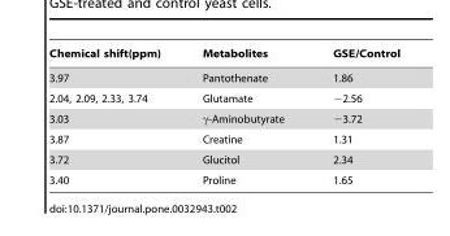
<table><thead><tr><td>Chemical shift(ppm)</td><td>Metabolites</td><td>GSE/Control</td></tr></thead><tbody><tr><td>3.97</td><td>Pantothenate</td><td>1.86</td></tr><tr><td>2.04, 2.09, 2.33, 3.74</td><td>Glutamate</td><td>−2.56</td></tr><tr><td>3.03</td><td>γ-Aminobutyrate</td><td>−3.72</td></tr><tr><td>3.87</td><td>Creatine</td><td>1.31</td></tr><tr><td>3.72</td><td>Glucitol</td><td>2.34</td></tr><tr><td>3.40</td><td>Proline</td><td>1.65</td></tr></tbody></table>